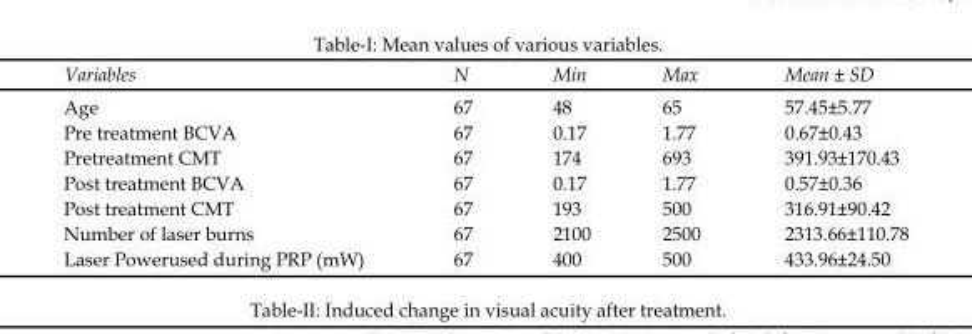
<table><thead><tr><td>Variables</td><td>N</td><td>Min</td><td>Max</td><td>Mean ± SD</td></tr></thead><tbody><tr><td>Age</td><td>67</td><td>48</td><td>65</td><td>57.45±5.77</td></tr><tr><td>Pre treatment BCVA</td><td>67</td><td>0.17</td><td>1.77</td><td>0.67±0.43</td></tr><tr><td>Pretreatment CMT</td><td>67</td><td>174</td><td>693</td><td>391.93±170.43</td></tr><tr><td>Post treatment BCVA</td><td>67</td><td>0.17</td><td>1.77</td><td>0.57±0.36</td></tr><tr><td>Post treatment CMT</td><td>67</td><td>193</td><td>500</td><td>316.91±90.42</td></tr><tr><td>Number of laser burns</td><td>67</td><td>2100</td><td>2500</td><td>2313.66±110.78</td></tr><tr><td>Laser Powerused during PRP (mW)</td><td>67</td><td>400</td><td>500</td><td>433.96±24.50</td></tr></tbody></table>